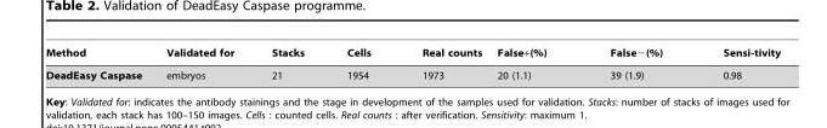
<table><thead><tr><td>Method</td><td>Validated for</td><td>Stacks</td><td>Cells</td><td>Real counts</td><td>False+(%)</td><td>False−(%)</td><td>Sensi-tivity</td></tr></thead><tbody><tr><td>DeadEasy Caspase</td><td>embryos</td><td>21</td><td>1954</td><td>1973</td><td>20 (1.1)</td><td>39 (1.9)</td><td>0.98</td></tr></tbody></table>